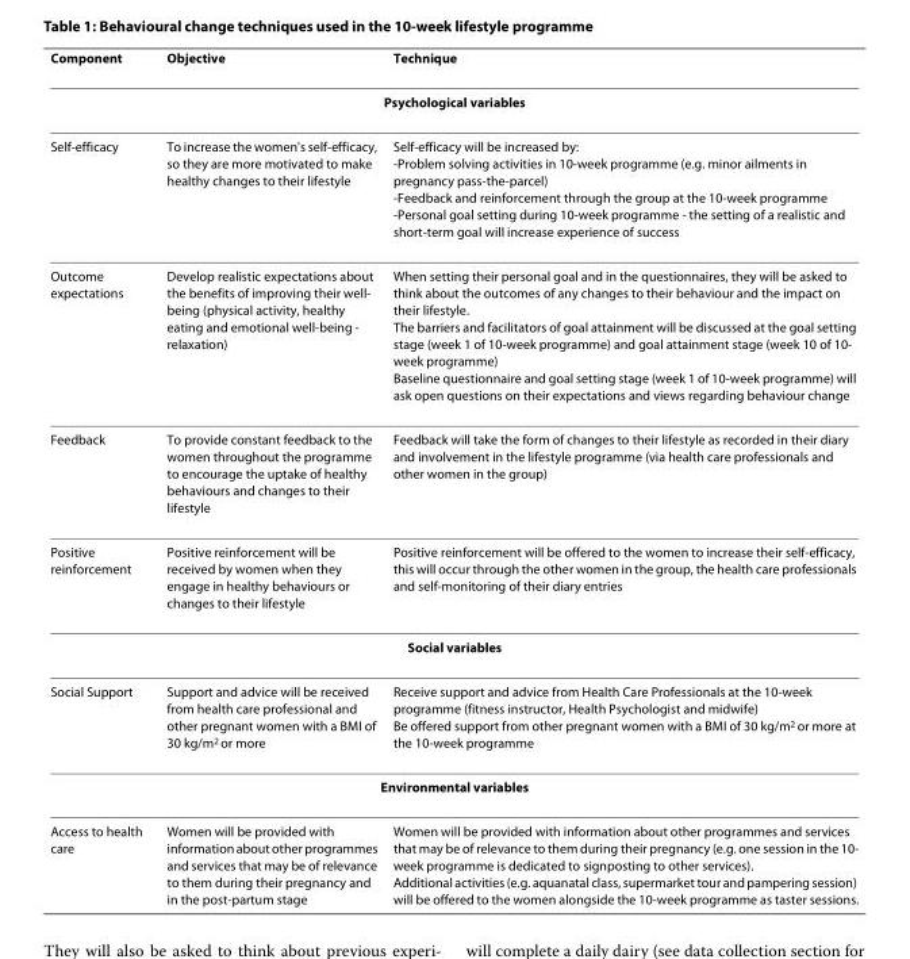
<table><thead><tr><td>Component</td><td>Objective</td><td>Technique</td></tr></thead><tbody><tr><td colspan="3">Psychological variables</td></tr><tr><td>Self-efficacy</td><td>To increase the women&#x27;s self-efficacy, so they are more motivated to make healthy changes to their lifestyle</td><td>Self-efficacy will be increased by: -Problem solving activities in 10-week programme (e.g. minor ailments in pregnancy pass-the-parcel) -Feedback and reinforcement through the group at the 10-week programme -Personal goal setting during 10-week programme - the setting of a realistic and short-term goal will increase experience of success</td></tr><tr><td>Outcome expectations</td><td>Develop realistic expectations about the benefits of improving their well- being (physical activity, healthy eating and emotional well-being - relaxation)</td><td>When setting their personal goal and in the questionnaires, they will be asked to think about the outcomes of any changes to their behaviour and the impact on their lifestyle. The barriers and facilitators of goal attainment will be discussed at the goal setting stage (week 1 of 10-week programme) and goal attainment stage (week 10 of 10- week programme) Baseline questionnaire and goal setting stage (week 1 of 10-week programme) will ask open questions on their expectations and views regarding behaviour change</td></tr><tr><td>Feedback</td><td>To provide constant feedback to the women throughout the programme to encourage the uptake of healthy behaviours and changes to their lifestyle</td><td>Feedback will take the form of changes to their lifestyle as recorded in their diary and involvement in the lifestyle programme (via health care professionals and other women in the group)</td></tr><tr><td>Positive reinforcement</td><td>Positive reinforcement will be received by women when they engage in healthy behaviours or changes to their lifestyle</td><td>Positive reinforcement will be offered to the women to increase their self-efficacy, this will occur through the other women in the group, the health care professionals and self-monitoring of their diary entries</td></tr><tr><td colspan="3">Social variables</td></tr><tr><td>Social Support</td><td>Support and advice will be received from health care professional and other pregnant women with a BMI of 30 kg/m<sup>2</sup> or more</td><td>Receive support and advice from Health Care Professionals at the 10-week programme (fitness instructor, Health Psychologist and midwife) Be offered support from other pregnant women with a BMI of 30 kg/m<sup>2</sup> or more at the 10-week programme</td></tr><tr><td colspan="3">Environmental variables</td></tr><tr><td>Access to health care</td><td>Women will be provided with information about other programmes and services that may be of relevance to them during their pregnancy and in the post-partum stage</td><td>Women will be provided with information about other programmes and services that may be of relevance to them during their pregnancy (e.g. one session in the 10- week programme is dedicated to signposting to other services). Additional activities (e.g. aquanatal class, supermarket tour and pampering session) will be offered to the women alongside the 10-week programme as taster sessions.</td></tr></tbody></table>